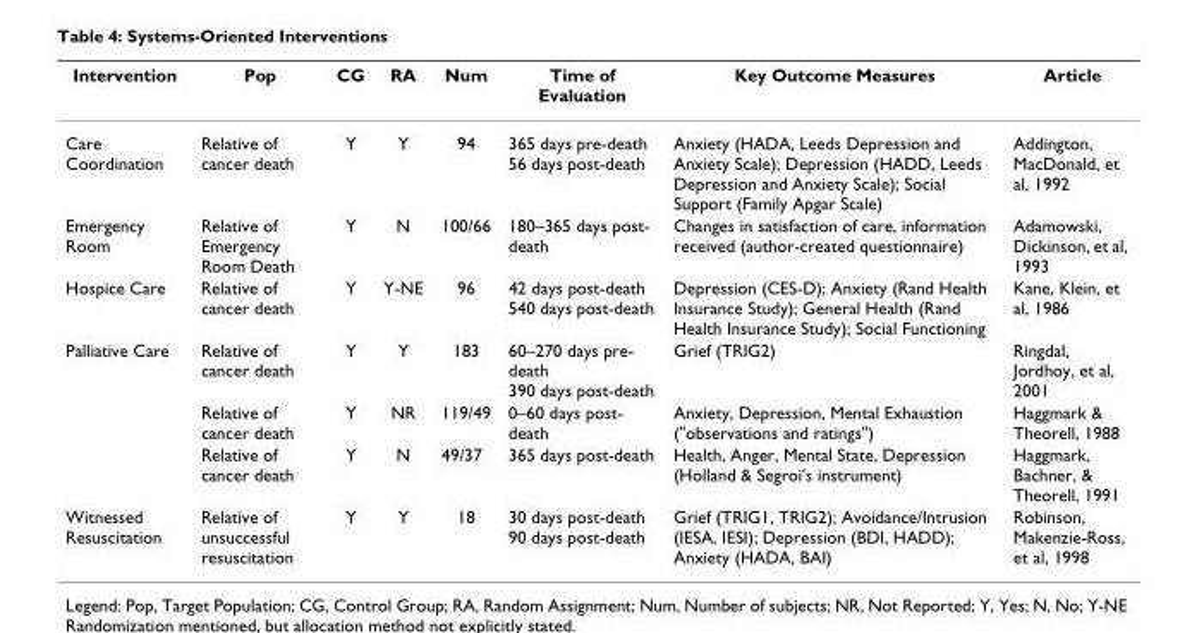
<table><thead><tr><td>Intervention</td><td>Pop</td><td>CG</td><td>RA</td><td>Num</td><td>Time of Evaluation</td><td>Key Outcome Measures</td><td>Article</td></tr></thead><tbody><tr><td>Care Coordination</td><td>Relative of cancer death</td><td>Y</td><td>Y</td><td>94</td><td>365 days pre-death 56 days post-death</td><td>Anxiety (HADA, Leeds Depression and Anxiety Scale); Depression (HADD, Leeds Depression and Anxiety Scale); Social Support (Family Apgar Scale)</td><td>Addington, MacDonald, et al, 1992</td></tr><tr><td>Emergency Room</td><td>Relative of Emergency Room Death</td><td>Y</td><td>N</td><td>100/66</td><td>180–365 days post- death</td><td>Changes in satisfaction of care, information received (author-created questionnaire)</td><td>Adamowski, Dickinson, et al, 1993</td></tr><tr><td>Hospice Care</td><td>Relative of cancer death</td><td>Y</td><td>Y-NE</td><td>96</td><td>42 days post-death 540 days post-death</td><td>Depression (CES-D); Anxiety (Rand Health Insurance Study); General Health (Rand Health Insurance Study); Social Functioning</td><td>Kane, Klein, et al, 1986</td></tr><tr><td rowspan="3">Palliative Care</td><td>Relative of cancer death</td><td>Y</td><td>Y</td><td>183</td><td>60–270 days pre- death 390 days post-death</td><td>Grief (TRIG2)</td><td>Ringdal, Jordhoy, et al, 2001</td></tr><tr><td>Relative of cancer death</td><td>Y</td><td>NR</td><td>119/49</td><td>0–60 days post- death</td><td>Anxiety, Depression, Mental Exhaustion (&quot;observations and ratings&quot;)</td><td>Haggmark &amp; Theorell, 1988</td></tr><tr><td>Relative of cancer death</td><td>Y</td><td>N</td><td>49/37</td><td>365 days post-death</td><td>Health, Anger, Mental State, Depression (Holland &amp; Segroi&#x27;s instrument)</td><td>Haggmark, Bachner, &amp; Theorell, 1991</td></tr><tr><td>Witnessed Resuscitation</td><td>Relative of unsuccessful resuscitation</td><td>Y</td><td>Y</td><td>18</td><td>30 days post-death 90 days post-death</td><td>Grief (TRIG1, TRIG2); Avoidance/Intrusion (IESA, IESI); Depression (BDI, HADD); Anxiety (HADA, BAI)</td><td>Robinson, Makenzie-Ross, et al, 1998</td></tr></tbody></table>